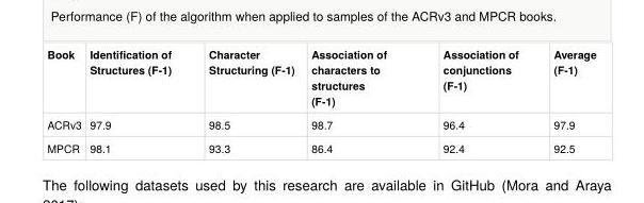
<table><tbody><tr><td>Book</td><td>Identification of Structures (F-1)</td><td>Character Structuring (F-1)</td><td>Association of characters to structures (F-1)</td><td>Association of conjunctions (F-1)</td><td>Average (F-1)</td></tr><tr><td>ACRv3</td><td>97.9</td><td>98.5</td><td>98.7</td><td>96.4</td><td>97.9</td></tr><tr><td>MPCR</td><td>98.1</td><td>93.3</td><td>86.4</td><td>92.4</td><td>92.5</td></tr></tbody></table>